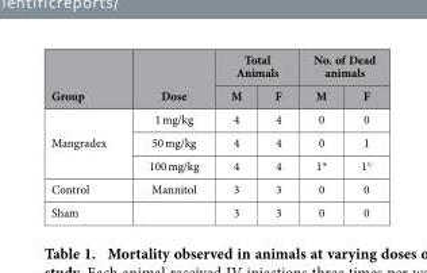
<table><thead><tr><td rowspan="2">Group</td><td rowspan="2">Dose</td><td colspan="2">Total Animals</td><td colspan="2">No. of Dead animals</td></tr><tr><td>M</td><td>F</td><td>M</td><td>F</td></tr></thead><tbody><tr><td rowspan="3">Mangradex</td><td>1 mg/kg</td><td>4</td><td>4</td><td>0</td><td>0</td></tr><tr><td>50 mg/kg</td><td>4</td><td>4</td><td>0</td><td>1</td></tr><tr><td>100 mg/kg</td><td>4</td><td>4</td><td>1*</td><td>1ψ</td></tr><tr><td>Control</td><td>Mannitol</td><td>3</td><td>3</td><td>0</td><td>0</td></tr><tr><td>Sham</td><td></td><td>3</td><td>3</td><td>0</td><td>0</td></tr></tbody></table>